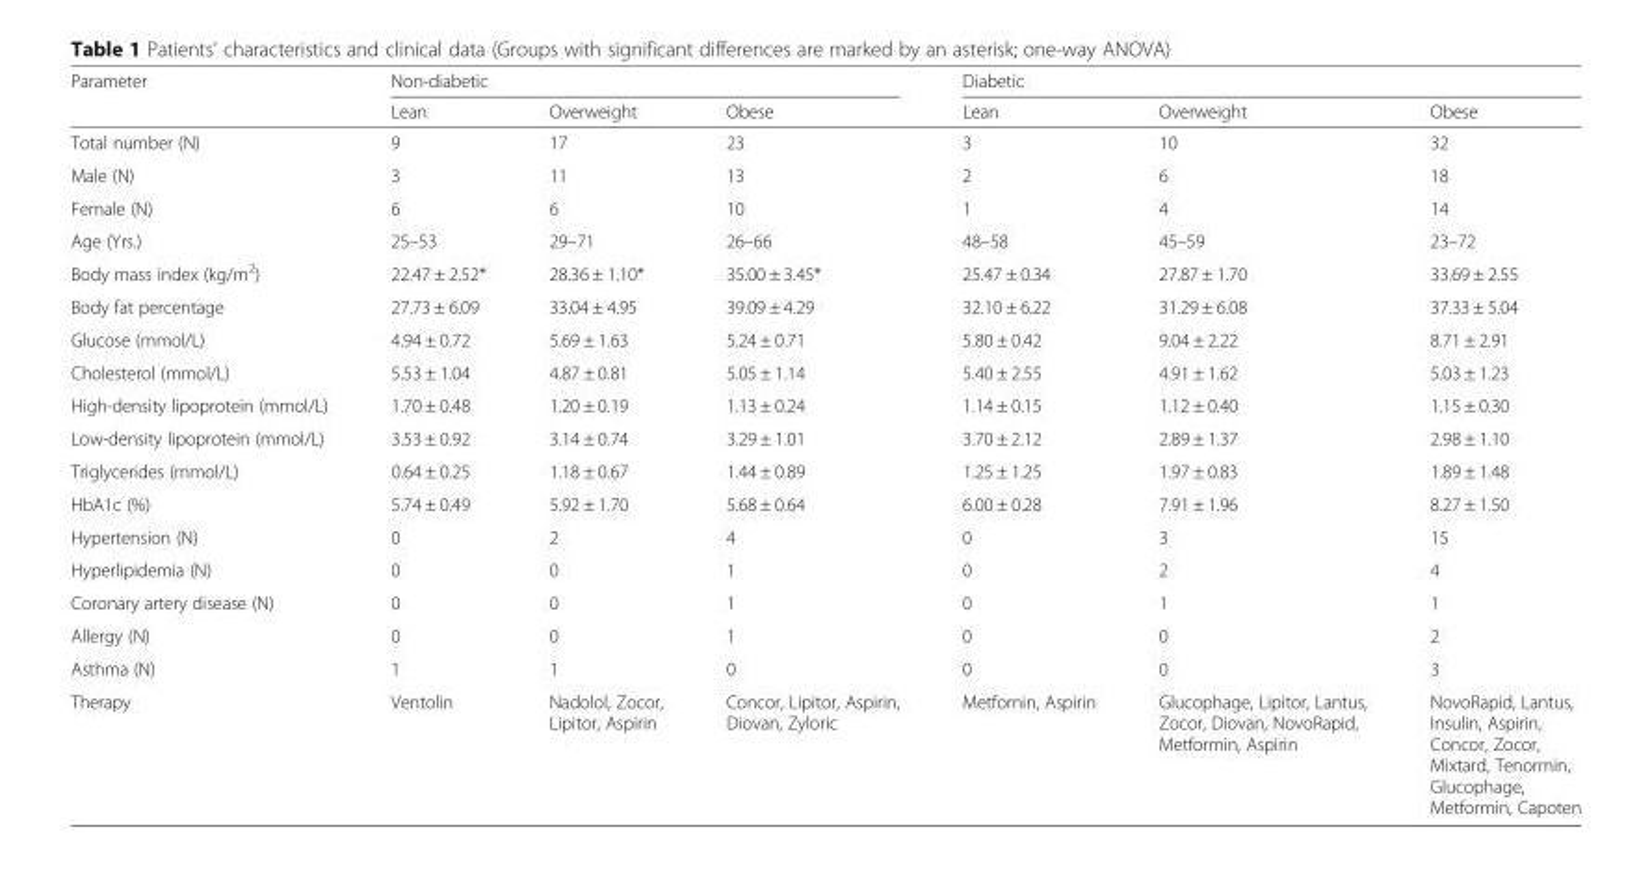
<table><thead><tr><td rowspan="2">Parameter</td><td colspan="3">Non-diabetic</td><td colspan="3">Diabetic</td></tr><tr><td>Lean</td><td>Overweight</td><td>Obese</td><td>Lean</td><td>Overweight</td><td>Obese</td></tr></thead><tbody><tr><td>Total number (N)</td><td>9</td><td>17</td><td>23</td><td>3</td><td>10</td><td>32</td></tr><tr><td>Male (N)</td><td>3</td><td>11</td><td>13</td><td>2</td><td>6</td><td>18</td></tr><tr><td>Female (N)</td><td>6</td><td>6</td><td>10</td><td>1</td><td>4</td><td>14</td></tr><tr><td>Age (Yrs.)</td><td>25–53</td><td>29–71</td><td>26–66</td><td>48–58</td><td>45–59</td><td>23–72</td></tr><tr><td>Body mass index (kg/m<sup>2</sup>)</td><td>22.47 ± 2.52*</td><td>28.36 ± 1.10*</td><td>35.00 ± 3.45*</td><td>25.47 ± 0.34</td><td>27.87 ± 1.70</td><td>33.69 ± 2.55</td></tr><tr><td>Body fat percentage</td><td>27.73 ± 6.09</td><td>33.04 ± 4.95</td><td>39.09 ± 4.29</td><td>32.10 ± 6.22</td><td>31.29 ± 6.08</td><td>37.33 ± 5.04</td></tr><tr><td>Glucose (mmol/L)</td><td>4.94 ± 0.72</td><td>5.69 ± 1.63</td><td>5.24 ± 0.71</td><td>5.80 ± 0.42</td><td>9.04 ± 2.22</td><td>8.71 ± 2.91</td></tr><tr><td>Cholesterol (mmol/L)</td><td>5.53 ± 1.04</td><td>4.87 ± 0.81</td><td>5.05 ± 1.14</td><td>5.40 ± 2.55</td><td>4.91 ± 1.62</td><td>5.03 ± 1.23</td></tr><tr><td>High-density lipoprotein (mmol/L)</td><td>1.70 ± 0.48</td><td>1.20 ± 0.19</td><td>1.13 ± 0.24</td><td>1.14 ± 0.15</td><td>1.12 ± 0.40</td><td>1.15 ± 0.30</td></tr><tr><td>Low-density lipoprotein (mmol/L)</td><td>3.53 ± 0.92</td><td>3.14 ± 0.74</td><td>3.29 ± 1.01</td><td>3.70 ± 2.12</td><td>2.89 ± 1.37</td><td>2.98 ± 1.10</td></tr><tr><td>Triglycerides (mmol/L)</td><td>0.64 ± 0.25</td><td>1.18 ± 0.67</td><td>1.44 ± 0.89</td><td>1.25 ± 1.25</td><td>1.97 ± 0.83</td><td>1.89 ± 1.48</td></tr><tr><td>HbA1c (%)</td><td>5.74 ± 0.49</td><td>5.92 ± 1.70</td><td>5.68 ± 0.64</td><td>6.00 ± 0.28</td><td>7.91 ± 1.96</td><td>8.27 ± 1.50</td></tr><tr><td>Hypertension (N)</td><td>0</td><td>2</td><td>4</td><td>0</td><td>3</td><td>15</td></tr><tr><td>Hyperlipidemia (N)</td><td>0</td><td>0</td><td>1</td><td>0</td><td>2</td><td>4</td></tr><tr><td>Coronary artery disease (N)</td><td>0</td><td>0</td><td>1</td><td>0</td><td>1</td><td>1</td></tr><tr><td>Allergy (N)</td><td>0</td><td>0</td><td>1</td><td>0</td><td>0</td><td>2</td></tr><tr><td>Asthma (N)</td><td>1</td><td>1</td><td>0</td><td>0</td><td>0</td><td>3</td></tr><tr><td>Therapy</td><td>Ventolin</td><td>Nadolol, Zocor, Lipitor, Aspirin</td><td>Concor, Lipitor, Aspirin, Diovan, Zyloric</td><td>Metfornin, Aspirin</td><td>Glucophage, Lipitor, Lantus, Zocor, Diovan, NovoRapid, Metformin, Aspirin</td><td>NovoRapid, Lantus, Insulin, Aspirin, Concor, Zocor, Mixtard, Tenormin, Glucophage, Metformin, Capoten</td></tr></tbody></table>